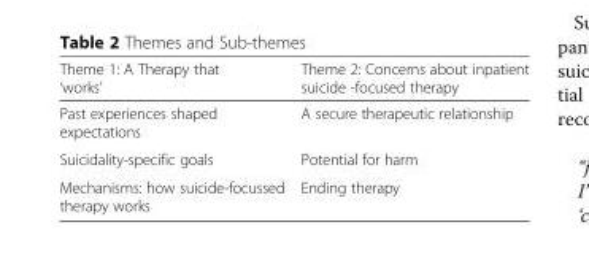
<table><thead><tr><td>Theme 1: A Therapy that ‘works’</td><td>Theme 2: Concerns about inpatient suicide -focused therapy</td></tr></thead><tbody><tr><td>Past experiences shaped expectations</td><td>A secure therapeutic relationship</td></tr><tr><td>Suicidality-specific goals</td><td>Potential for harm</td></tr><tr><td>Mechanisms: how suicide-focussed therapy works</td><td>Ending therapy</td></tr></tbody></table>